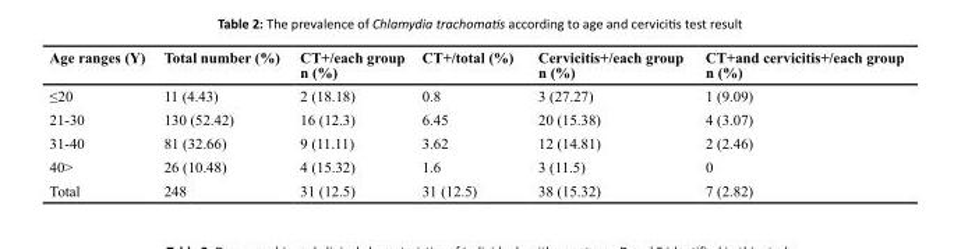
<table><thead><tr><td>Age ranges (Y)</td><td>Total number (%)</td><td>CT+/each group n (%)</td><td>CT+/total (%)</td><td>Cervicitis+/each group n (%)</td><td>CT+and cervicitis+/each group n (%)</td></tr></thead><tbody><tr><td>≤20</td><td>11 (4.43)</td><td>2 (18.18)</td><td>0.8</td><td>3 (27.27)</td><td>1 (9.09)</td></tr><tr><td>21-30</td><td>130 (52.42)</td><td>16 (12.3)</td><td>6.45</td><td>20 (15.38)</td><td>4 (3.07)</td></tr><tr><td>31-40</td><td>81 (32.66)</td><td>9 (11.11)</td><td>3.62</td><td>12 (14.81)</td><td>2 (2.46)</td></tr><tr><td>40˃</td><td>26 (10.48)</td><td>4 (15.32)</td><td>1.6</td><td>3 (11.5)</td><td>0</td></tr><tr><td>Total</td><td>248</td><td>31 (12.5)</td><td>31 (12.5)</td><td>38 (15.32)</td><td>7 (2.82)</td></tr></tbody></table>